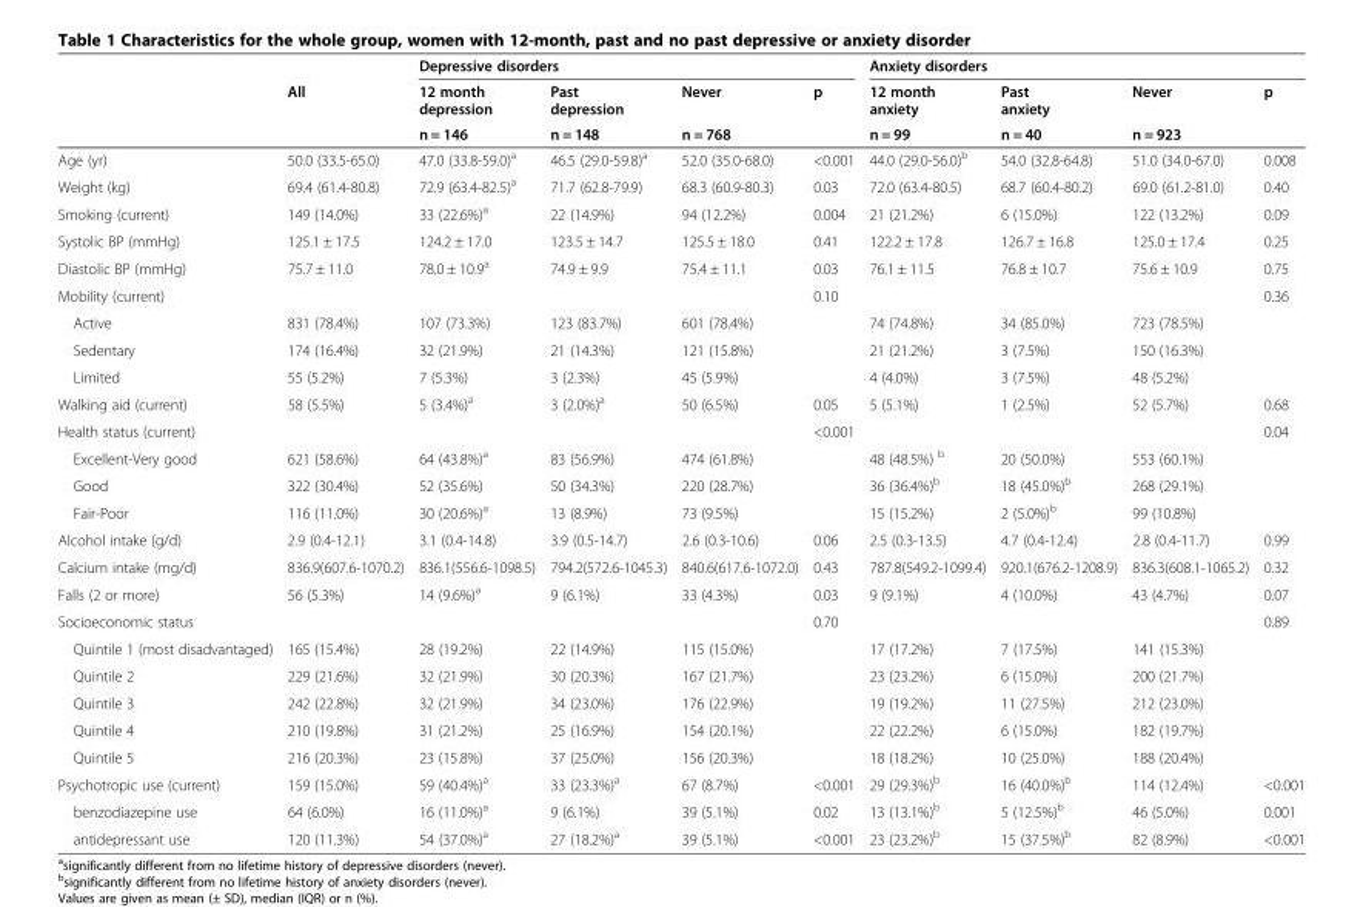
<table><thead><tr><td rowspan="3"></td><td rowspan="3">All</td><td colspan="4">Depressive disorders</td><td colspan="4">Anxiety disorders</td></tr><tr><td rowspan="2">12 month depression n = 146</td><td rowspan="2">Past depression n = 148</td><td rowspan="2">Never n = 768</td><td rowspan="2">p</td><td rowspan="2">12 month anxiety n = 99</td><td rowspan="2">Past anxiety n = 40</td><td rowspan="2">Never n = 923</td><td rowspan="2">p</td></tr><tr></tr></thead><tbody><tr><td>Age (yr)</td><td>50.0 (33.5-65.0)</td><td>47.0 (33.8-59.0)<sup>a</sup></td><td>46.5 (29.0-59.8)<sup>a</sup></td><td>52.0 (35.0-68.0)</td><td>&lt;0.001</td><td>44.0 (29.0-56.0)<sup>b</sup></td><td>54.0 (32.8-64.8)</td><td>51.0 (34.0-67.0)</td><td>0.008</td></tr><tr><td>Weight (kg)</td><td>69.4 (61.4-80.8)</td><td>72.9 (63.4-82.5)<sup>a</sup></td><td>71.7 (62.8-79.9)</td><td>68.3 (60.9-80.3)</td><td>0.03</td><td>72.0 (63.4-80.5)</td><td>68.7 (60.4-80.2)</td><td>69.0 (61.2-81.0)</td><td>0.40</td></tr><tr><td>Smoking (current)</td><td>149 (14.0%)</td><td>33 (22.6%)<sup>a</sup></td><td>22 (14.9%)</td><td>94 (12.2%)</td><td>0.004</td><td>21 (21.2%)</td><td>6 (15.0%)</td><td>122 (13.2%)</td><td>0.09</td></tr><tr><td>Systolic BP (mmHg)</td><td>125.1 ± 17.5</td><td>124.2 ± 17.0</td><td>123.5 ± 14.7</td><td>125.5 ± 18.0</td><td>0.41</td><td>122.2 ± 17.8</td><td>126.7 ± 16.8</td><td>125.0 ± 17.4</td><td>0.25</td></tr><tr><td>Diastolic BP (mmHg)</td><td>75.7 ± 11.0</td><td>78.0 ± 10.9<sup>a</sup></td><td>74.9 ± 9.9</td><td>75.4 ± 11.1</td><td>0.03</td><td>76.1 ± 11.5</td><td>76.8 ± 10.7</td><td>75.6 ± 10.9</td><td>0.75</td></tr><tr><td>Mobility (current)</td><td></td><td></td><td></td><td></td><td>0.10</td><td></td><td></td><td></td><td>0.36</td></tr><tr><td>Active</td><td>831 (78.4%)</td><td>107 (73.3%)</td><td>123 (83.7%)</td><td>601 (78.4%)</td><td></td><td>74 (74.8%)</td><td>34 (85.0%)</td><td>723 (78.5%)</td><td></td></tr><tr><td>Sedentary</td><td>174 (16.4%)</td><td>32 (21.9%)</td><td>21 (14.3%)</td><td>121 (15.8%)</td><td></td><td>21 (21.2%)</td><td>3 (7.5%)</td><td>150 (16.3%)</td><td></td></tr><tr><td>Limited</td><td>55 (5.2%)</td><td>7 (5.3%)</td><td>3 (2.3%)</td><td>45 (5.9%)</td><td></td><td>4 (4.0%)</td><td>3 (7.5%)</td><td>48 (5.2%)</td><td></td></tr><tr><td>Walking aid (current)</td><td>58 (5.5%)</td><td>5 (3.4%)<sup>a</sup></td><td>3 (2.0%)<sup>a</sup></td><td>50 (6.5%)</td><td>0.05</td><td>5 (5.1%)</td><td>1 (2.5%)</td><td>52 (5.7%)</td><td>0.68</td></tr><tr><td>Health status (current)</td><td></td><td></td><td></td><td></td><td>&lt;0.001</td><td></td><td></td><td></td><td>0.04</td></tr><tr><td>Excellent-Very good</td><td>621 (58.6%)</td><td>64 (43.8%)<sup>a</sup></td><td>83 (56.9%)</td><td>474 (61.8%)</td><td></td><td>48 (48.5%) <sup>b</sup></td><td>20 (50.0%)</td><td>553 (60.1%)</td><td></td></tr><tr><td>Good</td><td>322 (30.4%)</td><td>52 (35.6%)</td><td>50 (34.3%)</td><td>220 (28.7%)</td><td></td><td>36 (36.4%)<sup>b</sup></td><td>18 (45.0%)<sup>b</sup></td><td>268 (29.1%)</td><td></td></tr><tr><td>Fair-Poor</td><td>116 (11.0%)</td><td>30 (20.6%)<sup>a</sup></td><td>13 (8.9%)</td><td>73 (9.5%)</td><td></td><td>15 (15.2%)</td><td>2 (5.0%)<sup>b</sup></td><td>99 (10.8%)</td><td></td></tr><tr><td>Alcohol intake (g/d)</td><td>2.9 (0.4-12.1)</td><td>3.1 (0.4-14.8)</td><td>3.9 (0.5-14.7)</td><td>2.6 (0.3-10.6)</td><td>0.06</td><td>2.5 (0.3-13.5)</td><td>4.7 (0.4-12.4)</td><td>2.8 (0.4-11.7)</td><td>0.99</td></tr><tr><td>Calcium intake (mg/d)</td><td>836.9(607.6-1070.2)</td><td>836.1(556.6-1098.5)</td><td>794.2(572.6-1045.3)</td><td>840.6(617.6-1072.0)</td><td>0.43</td><td>787.8(549.2-1099.4)</td><td>920.1(676.2-1208.9)</td><td>836.3(608.1-1065.2)</td><td>0.32</td></tr><tr><td>Falls (2 or more)</td><td>56 (5.3%)</td><td>14 (9.6%)<sup>a</sup></td><td>9 (6.1%)</td><td>33 (4.3%)</td><td>0.03</td><td>9 (9.1%)</td><td>4 (10.0%)</td><td>43 (4.7%)</td><td>0.07</td></tr><tr><td>Socioeconomic status</td><td></td><td></td><td></td><td></td><td>0.70</td><td></td><td></td><td></td><td>0.89</td></tr><tr><td>Quintile 1 (most disadvantaged)</td><td>165 (15.4%)</td><td>28 (19.2%)</td><td>22 (14.9%)</td><td>115 (15.0%)</td><td></td><td>17 (17.2%)</td><td>7 (17.5%)</td><td>141 (15.3%)</td><td></td></tr><tr><td>Quintile 2</td><td>229 (21.6%)</td><td>32 (21.9%)</td><td>30 (20.3%)</td><td>167 (21.7%)</td><td></td><td>23 (23.2%)</td><td>6 (15.0%)</td><td>200 (21.7%)</td><td></td></tr><tr><td>Quintile 3</td><td>242 (22.8%)</td><td>32 (21.9%)</td><td>34 (23.0%)</td><td>176 (22.9%)</td><td></td><td>19 (19.2%)</td><td>11 (27.5%)</td><td>212 (23.0%)</td><td></td></tr><tr><td>Quintile 4</td><td>210 (19.8%)</td><td>31 (21.2%)</td><td>25 (16.9%)</td><td>154 (20.1%)</td><td></td><td>22 (22.2%)</td><td>6 (15.0%)</td><td>182 (19.7%)</td><td></td></tr><tr><td>Quintile 5</td><td>216 (20.3%)</td><td>23 (15.8%)</td><td>37 (25.0%)</td><td>156 (20.3%)</td><td></td><td>18 (18.2%)</td><td>10 (25.0%)</td><td>188 (20.4%)</td><td></td></tr><tr><td>Psychotropic use (current)</td><td>159 (15.0%)</td><td>59 (40.4%)<sup>a</sup></td><td>33 (23.3%)<sup>a</sup></td><td>67 (8.7%)</td><td>&lt;0.001</td><td>29 (29.3%)<sup>b</sup></td><td>16 (40.0%)<sup>b</sup></td><td>114 (12.4%)</td><td>&lt;0.001</td></tr><tr><td>benzodiazepine use</td><td>64 (6.0%)</td><td>16 (11.0%)<sup>a</sup></td><td>9 (6.1%)</td><td>39 (5.1%)</td><td>0.02</td><td>13 (13.1%)<sup>b</sup></td><td>5 (12.5%)<sup>b</sup></td><td>46 (5.0%)</td><td>0.001</td></tr><tr><td>antidepressant use</td><td>120 (11.3%)</td><td>54 (37.0%)<sup>a</sup></td><td>27 (18.2%)<sup>a</sup></td><td>39 (5.1%)</td><td>&lt;0.001</td><td>23 (23.2%)<sup>b</sup></td><td>15 (37.5%)<sup>b</sup></td><td>82 (8.9%)</td><td>&lt;0.001</td></tr></tbody></table>